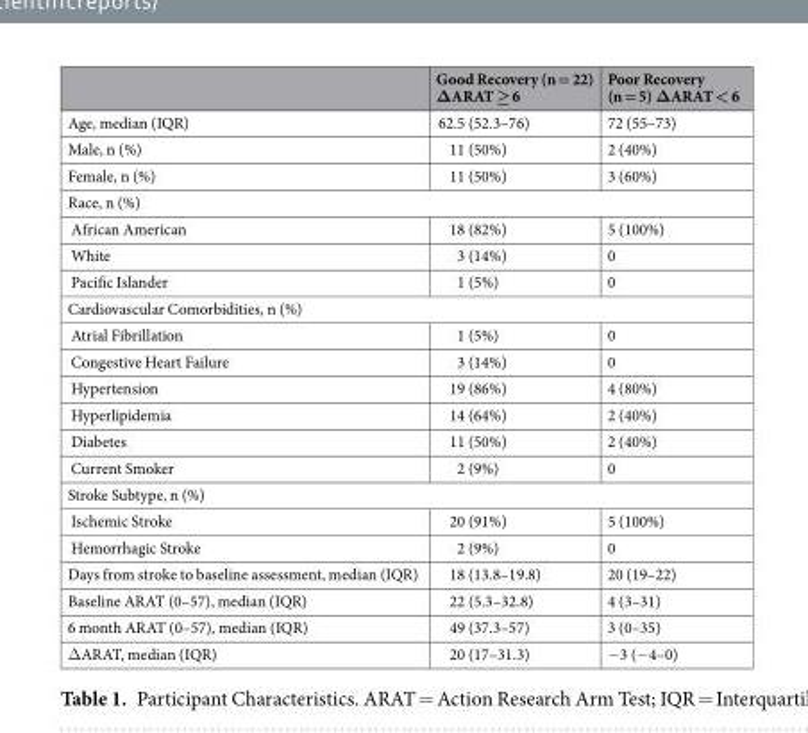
<table><thead><tr><td></td><td>Good Recovery (n = 22) ΔARAT ≥ 6</td><td>Poor Recovery (n = 5) ΔARAT &lt; 6</td></tr></thead><tbody><tr><td>Age, median (IQR)</td><td>62.5 (52.3–76)</td><td>72 (55–73)</td></tr><tr><td>Male, n (%)</td><td>11 (50%)</td><td>2 (40%)</td></tr><tr><td>Female, n (%)</td><td>11 (50%)</td><td>3 (60%)</td></tr><tr><td colspan="3">Race, n (%)</td></tr><tr><td>African American</td><td>18 (82%)</td><td>5 (100%)</td></tr><tr><td>White</td><td>3 (14%)</td><td>0</td></tr><tr><td>Pacific Islander</td><td>1 (5%)</td><td>0</td></tr><tr><td colspan="3">Cardiovascular Comorbidities, n (%)</td></tr><tr><td>Atrial Fibrillation</td><td>1 (5%)</td><td>0</td></tr><tr><td>Congestive Heart Failure</td><td>3 (14%)</td><td>0</td></tr><tr><td>Hypertension</td><td>19 (86%)</td><td>4 (80%)</td></tr><tr><td>Hyperlipidemia</td><td>14 (64%)</td><td>2 (40%)</td></tr><tr><td>Diabetes</td><td>11 (50%)</td><td>2 (40%)</td></tr><tr><td>Current Smoker</td><td>2 (9%)</td><td>0</td></tr><tr><td colspan="3">Stroke Subtype, n (%)</td></tr><tr><td>Ischemic Stroke</td><td>20 (91%)</td><td>5 (100%)</td></tr><tr><td>Hemorrhagic Stroke</td><td>2 (9%)</td><td>0</td></tr><tr><td>Days from stroke to baseline assessment, median (IQR)</td><td>18 (13.8–19.8)</td><td>20 (19–22)</td></tr><tr><td>Baseline ARAT (0–57), median (IQR)</td><td>22 (5.3–32.8)</td><td>4 (3–31)</td></tr><tr><td>6 month ARAT (0–57), median (IQR)</td><td>49 (37.3–57)</td><td>3 (0–35)</td></tr><tr><td>ΔARAT, median (IQR)</td><td>20 (17–31.3)</td><td>−3 (−4–0)</td></tr></tbody></table>